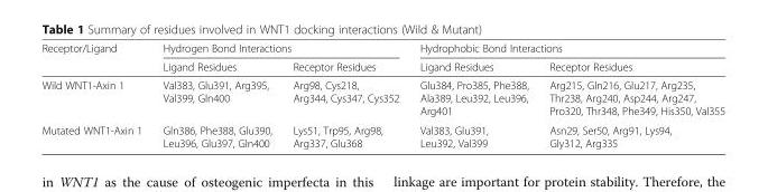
<table><thead><tr><td rowspan="2">Receptor/Ligand</td><td colspan="2">Hydrogen Bond Interactions</td><td colspan="2">Hydrophobic Bond Interactions</td></tr><tr><td>Ligand Residues</td><td>Receptor Residues</td><td>Ligand Residues</td><td>Receptor Residues</td></tr></thead><tbody><tr><td>Wild WNT1-Axin 1</td><td>Val383, Glu391, Arg395, Val399, Gln400</td><td>Arg98, Cys218, Arg344, Cys347, Cys352</td><td>Glu384, Pro385, Phe388, Ala389, Leu392, Leu396, Arg401</td><td>Arg215, Gln216, Glu217, Arg235, Thr238, Arg240, Asp244, Arg247, Pro320, Thr348, Phe349, His350, Val355</td></tr><tr><td>Mutated WNT1-Axin 1</td><td>Gln386, Phe388, Glu390, Leu396, Glu397, Gln400</td><td>Lys51, Trp95, Arg98, Arg337, Glu368</td><td>Val383, Glu391, Leu392, Val399</td><td>Asn29, Ser50, Arg91, Lys94, Gly312, Arg335</td></tr></tbody></table>